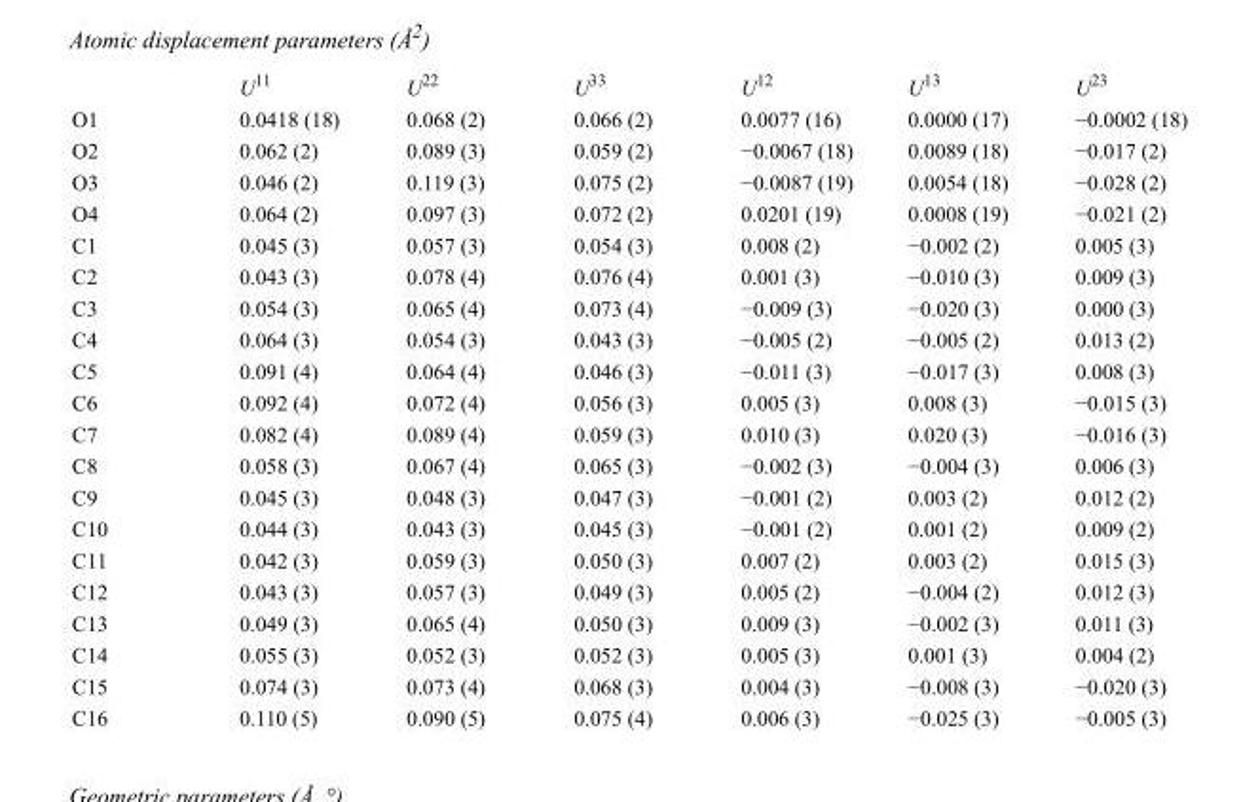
<table><thead><tr><td></td><td>U<sup>11</sup></td><td>U<sup>22</sup></td><td>U<sup>33</sup></td><td>U<sup>12</sup></td><td>U<sup>13</sup></td><td>U<sup>23</sup></td></tr></thead><tbody><tr><td>O1</td><td>0.0418 (18)</td><td>0.068 (2)</td><td>0.066 (2)</td><td>0.0077 (16)</td><td>0.0000 (17)</td><td>−0.0002 (18)</td></tr><tr><td>O2</td><td>0.062 (2)</td><td>0.089 (3)</td><td>0.059 (2)</td><td>−0.0067 (18)</td><td>0.0089 (18)</td><td>−0.017 (2)</td></tr><tr><td>O3</td><td>0.046 (2)</td><td>0.119 (3)</td><td>0.075 (2)</td><td>−0.0087 (19)</td><td>0.0054 (18)</td><td>−0.028 (2)</td></tr><tr><td>O4</td><td>0.064 (2)</td><td>0.097 (3)</td><td>0.072 (2)</td><td>0.0201 (19)</td><td>0.0008 (19)</td><td>−0.021 (2)</td></tr><tr><td>C1</td><td>0.045 (3)</td><td>0.057 (3)</td><td>0.054 (3)</td><td>0.008 (2)</td><td>−0.002 (2)</td><td>0.005 (3)</td></tr><tr><td>C2</td><td>0.043 (3)</td><td>0.078 (4)</td><td>0.076 (4)</td><td>0.001 (3)</td><td>−0.010 (3)</td><td>0.009 (3)</td></tr><tr><td>C3</td><td>0.054 (3)</td><td>0.065 (4)</td><td>0.073 (4)</td><td>−0.009 (3)</td><td>−0.020 (3)</td><td>0.000 (3)</td></tr><tr><td>C4</td><td>0.064 (3)</td><td>0.054 (3)</td><td>0.043 (3)</td><td>−0.005 (2)</td><td>−0.005 (2)</td><td>0.013 (2)</td></tr><tr><td>C5</td><td>0.091 (4)</td><td>0.064 (4)</td><td>0.046 (3)</td><td>−0.011 (3)</td><td>−0.017 (3)</td><td>0.008 (3)</td></tr><tr><td>C6</td><td>0.092 (4)</td><td>0.072 (4)</td><td>0.056 (3)</td><td>0.005 (3)</td><td>0.008 (3)</td><td>−0.015 (3)</td></tr><tr><td>C7</td><td>0.082 (4)</td><td>0.089 (4)</td><td>0.059 (3)</td><td>0.010 (3)</td><td>0.020 (3)</td><td>−0.016 (3)</td></tr><tr><td>C8</td><td>0.058 (3)</td><td>0.067 (4)</td><td>0.065 (3)</td><td>−0.002 (3)</td><td>−0.004 (3)</td><td>0.006 (3)</td></tr><tr><td>C9</td><td>0.045 (3)</td><td>0.048 (3)</td><td>0.047 (3)</td><td>−0.001 (2)</td><td>0.003 (2)</td><td>0.012 (2)</td></tr><tr><td>C10</td><td>0.044 (3)</td><td>0.043 (3)</td><td>0.045 (3)</td><td>−0.001 (2)</td><td>0.001 (2)</td><td>0.009 (2)</td></tr><tr><td>C11</td><td>0.042 (3)</td><td>0.059 (3)</td><td>0.050 (3)</td><td>0.007 (2)</td><td>0.003 (2)</td><td>0.015 (3)</td></tr><tr><td>C12</td><td>0.043 (3)</td><td>0.057 (3)</td><td>0.049 (3)</td><td>0.005 (2)</td><td>−0.004 (2)</td><td>0.012 (3)</td></tr><tr><td>C13</td><td>0.049 (3)</td><td>0.065 (4)</td><td>0.050 (3)</td><td>0.009 (3)</td><td>−0.002 (3)</td><td>0.011 (3)</td></tr><tr><td>C14</td><td>0.055 (3)</td><td>0.052 (3)</td><td>0.052 (3)</td><td>0.005 (3)</td><td>0.001 (3)</td><td>0.004 (2)</td></tr><tr><td>C15</td><td>0.074 (3)</td><td>0.073 (4)</td><td>0.068 (3)</td><td>0.004 (3)</td><td>−0.008 (3)</td><td>−0.020 (3)</td></tr><tr><td>C16</td><td>0.110 (5)</td><td>0.090 (5)</td><td>0.075 (4)</td><td>0.006 (3)</td><td>−0.025 (3)</td><td>−0.005 (3)</td></tr></tbody></table>